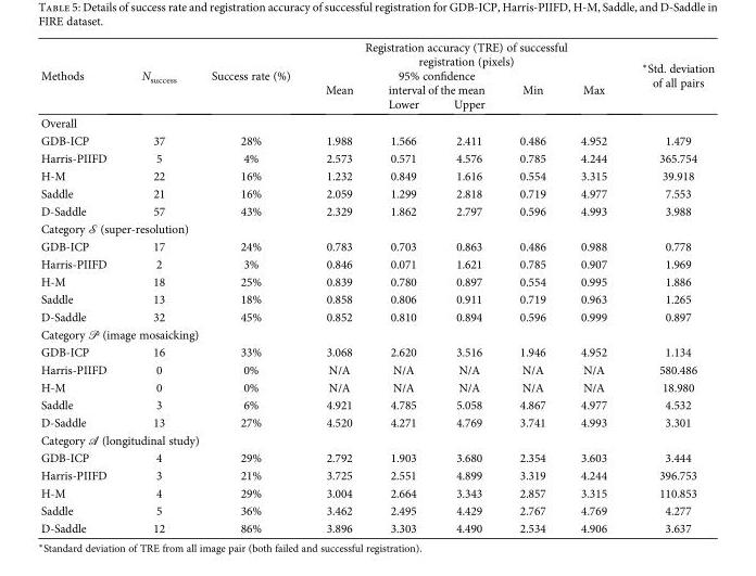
<table><thead><tr><td rowspan="3">Methods</td><td rowspan="3">N<sub>success</sub></td><td rowspan="3">Success rate (%)</td><td colspan="5">Registration accuracy (TRE) of successful registration (pixels)</td><td rowspan="3">∗Std. deviation of all pairs</td></tr><tr><td rowspan="2">Mean</td><td colspan="2">95% confidence interval of the mean</td><td rowspan="2">Min</td><td rowspan="2">Max</td></tr><tr><td>Lower</td><td>Upper</td></tr></thead><tbody><tr><td colspan="9">Overall</td></tr><tr><td>GDB-ICP</td><td>37</td><td>28%</td><td>1.988</td><td>1.566</td><td>2.411</td><td>0.486</td><td>4.952</td><td>1.479</td></tr><tr><td>Harris-PIIFD</td><td>5</td><td>4%</td><td>2.573</td><td>0.571</td><td>4.576</td><td>0.785</td><td>4.244</td><td>365.754</td></tr><tr><td>H-M</td><td>22</td><td>16%</td><td>1.232</td><td>0.849</td><td>1.616</td><td>0.554</td><td>3.315</td><td>39.918</td></tr><tr><td>Saddle</td><td>21</td><td>16%</td><td>2.059</td><td>1.299</td><td>2.818</td><td>0.719</td><td>4.977</td><td>7.553</td></tr><tr><td>D-Saddle</td><td>57</td><td>43%</td><td>2.329</td><td>1.862</td><td>2.797</td><td>0.596</td><td>4.993</td><td>3.988</td></tr><tr><td colspan="9">Category S (super-resolution)</td></tr><tr><td>GDB-ICP</td><td>17</td><td>24%</td><td>0.783</td><td>0.703</td><td>0.863</td><td>0.486</td><td>0.988</td><td>0.778</td></tr><tr><td>Harris-PIIFD</td><td>2</td><td>3%</td><td>0.846</td><td>0.071</td><td>1.621</td><td>0.785</td><td>0.907</td><td>1.969</td></tr><tr><td>H-M</td><td>18</td><td>25%</td><td>0.839</td><td>0.780</td><td>0.897</td><td>0.554</td><td>0.995</td><td>1.886</td></tr><tr><td>Saddle</td><td>13</td><td>18%</td><td>0.858</td><td>0.806</td><td>0.911</td><td>0.719</td><td>0.963</td><td>1.265</td></tr><tr><td>D-Saddle</td><td>32</td><td>45%</td><td>0.852</td><td>0.810</td><td>0.894</td><td>0.596</td><td>0.999</td><td>0.897</td></tr><tr><td colspan="9">Category P (image mosaicking)</td></tr><tr><td>GDB-ICP</td><td>16</td><td>33%</td><td>3.068</td><td>2.620</td><td>3.516</td><td>1.946</td><td>4.952</td><td>1.134</td></tr><tr><td>Harris-PIIFD</td><td>0</td><td>0%</td><td>N/A</td><td>N/A</td><td>N/A</td><td>N/A</td><td>N/A</td><td>580.486</td></tr><tr><td>H-M</td><td>0</td><td>0%</td><td>N/A</td><td>N/A</td><td>N/A</td><td>N/A</td><td>N/A</td><td>18.980</td></tr><tr><td>Saddle</td><td>3</td><td>6%</td><td>4.921</td><td>4.785</td><td>5.058</td><td>4.867</td><td>4.977</td><td>4.532</td></tr><tr><td>D-Saddle</td><td>13</td><td>27%</td><td>4.520</td><td>4.271</td><td>4.769</td><td>3.741</td><td>4.993</td><td>3.301</td></tr><tr><td colspan="9">Category A (longitudinal study)</td></tr><tr><td>GDB-ICP</td><td>4</td><td>29%</td><td>2.792</td><td>1.903</td><td>3.680</td><td>2.354</td><td>3.603</td><td>3.444</td></tr><tr><td>Harris-PIIFD</td><td>3</td><td>21%</td><td>3.725</td><td>2.551</td><td>4.899</td><td>3.319</td><td>4.244</td><td>396.753</td></tr><tr><td>H-M</td><td>4</td><td>29%</td><td>3.004</td><td>2.664</td><td>3.343</td><td>2.857</td><td>3.315</td><td>110.853</td></tr><tr><td>Saddle</td><td>5</td><td>36%</td><td>3.462</td><td>2.495</td><td>4.429</td><td>2.767</td><td>4.769</td><td>4.277</td></tr><tr><td>D-Saddle</td><td>12</td><td>86%</td><td>3.896</td><td>3.303</td><td>4.490</td><td>2.534</td><td>4.906</td><td>3.637</td></tr></tbody></table>